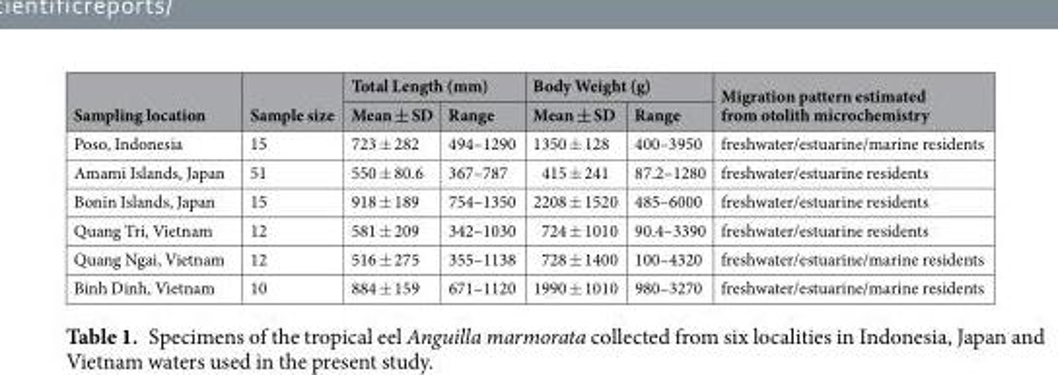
<table><thead><tr><td rowspan="2">Sampling location</td><td rowspan="2">Sample size</td><td colspan="2">Total Length (mm)</td><td colspan="2">Body Weight (g)</td><td rowspan="2">Migration pattern estimated from otolith microchemistry</td></tr><tr><td>Mean ± SD</td><td>Range</td><td>Mean ± SD</td><td>Range</td></tr></thead><tbody><tr><td>Poso, Indonesia</td><td>15</td><td>723 ± 282</td><td>494–1290</td><td>1350 ± 128</td><td>400–3950</td><td>freshwater/estuarine/marine residents</td></tr><tr><td>Amami Islands, Japan</td><td>51</td><td>550 ± 80.6</td><td>367–787</td><td>415 ± 241</td><td>87.2–1280</td><td>freshwater/estuarine residents</td></tr><tr><td>Bonin Islands, Japan</td><td>15</td><td>918 ± 189</td><td>754–1350</td><td>2208 ± 1520</td><td>485–6000</td><td>freshwater/estuarine residents</td></tr><tr><td>Quang Tri, Vietnam</td><td>12</td><td>581 ± 209</td><td>342–1030</td><td>724 ± 1010</td><td>90.4–3390</td><td>freshwater/estuarine residents</td></tr><tr><td>Quang Ngai, Vietnam</td><td>12</td><td>516 ± 275</td><td>355–1138</td><td>728 ± 1400</td><td>100–4320</td><td>freshwater/estuarine/marine residents</td></tr><tr><td>Binh Dinh, Vietnam</td><td>10</td><td>884 ± 159</td><td>671–1120</td><td>1990 ± 1010</td><td>980–3270</td><td>freshwater/estuarine/marine residents</td></tr></tbody></table>